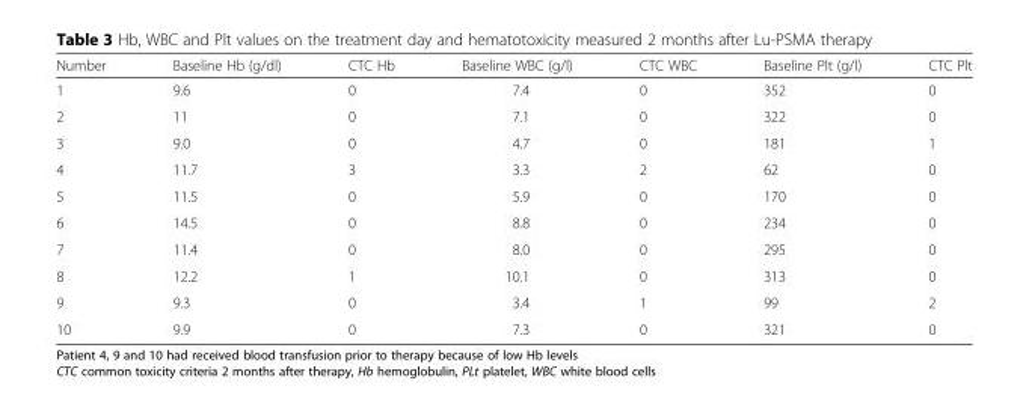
<table><thead><tr><td>Number</td><td>Baseline Hb (g/dl)</td><td>CTC Hb</td><td>Baseline WBC (g/l)</td><td>CTC WBC</td><td>Baseline Plt (g/l)</td><td>CTC Plt</td></tr></thead><tbody><tr><td>1</td><td>9.6</td><td>0</td><td>7.4</td><td>0</td><td>352</td><td>0</td></tr><tr><td>2</td><td>11</td><td>0</td><td>7.1</td><td>0</td><td>322</td><td>0</td></tr><tr><td>3</td><td>9.0</td><td>0</td><td>4.7</td><td>0</td><td>181</td><td>1</td></tr><tr><td>4</td><td>11.7</td><td>3</td><td>3.3</td><td>2</td><td>62</td><td>0</td></tr><tr><td>5</td><td>11.5</td><td>0</td><td>5.9</td><td>0</td><td>170</td><td>0</td></tr><tr><td>6</td><td>14.5</td><td>0</td><td>8.8</td><td>0</td><td>234</td><td>0</td></tr><tr><td>7</td><td>11.4</td><td>0</td><td>8.0</td><td>0</td><td>295</td><td>0</td></tr><tr><td>8</td><td>12.2</td><td>1</td><td>10.1</td><td>0</td><td>313</td><td>0</td></tr><tr><td>9</td><td>9.3</td><td>0</td><td>3.4</td><td>1</td><td>99</td><td>2</td></tr><tr><td>10</td><td>9.9</td><td>0</td><td>7.3</td><td>0</td><td>321</td><td>0</td></tr></tbody></table>